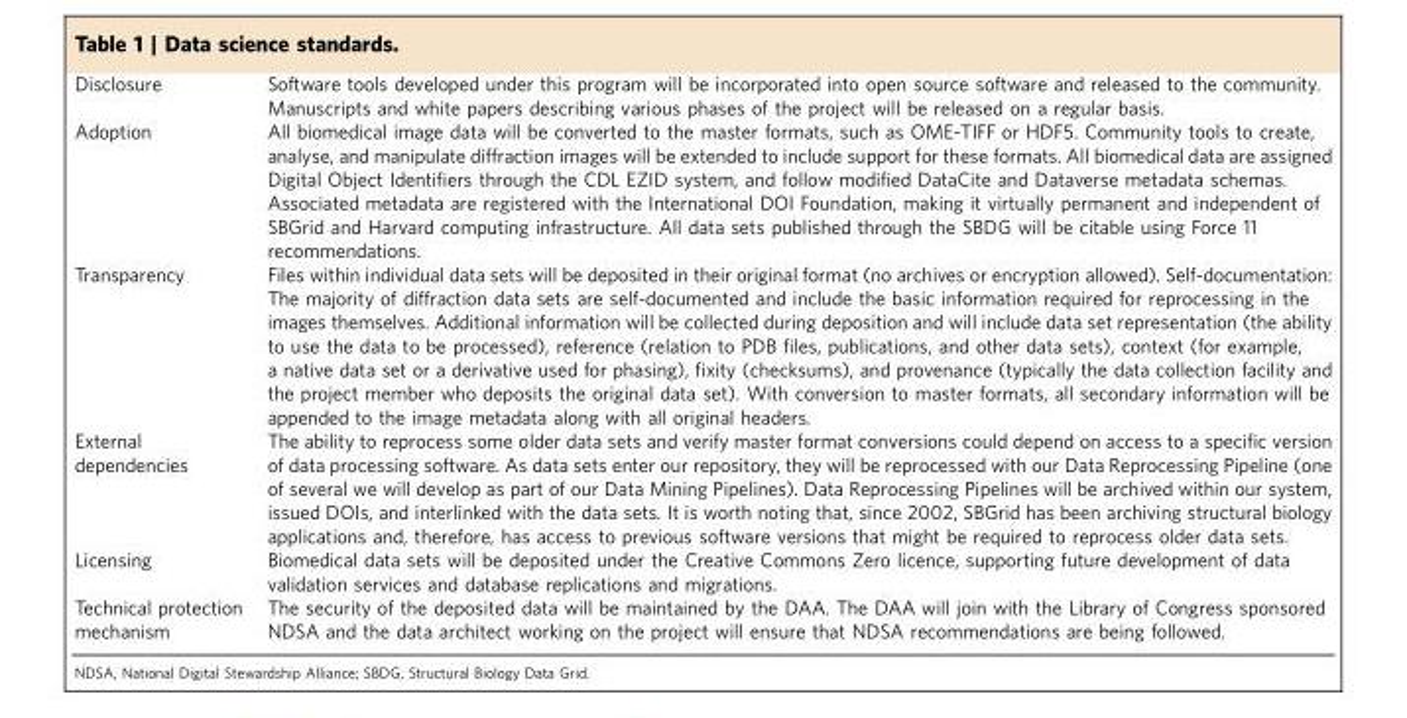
<table><tbody><tr><td>Disclosure</td><td>Software tools developed under this program will be incorporated into open source software and released to the community. Manuscripts and white papers describing various phases of the project will be released on a regular basis.</td></tr><tr><td>Adoption</td><td>All biomedical image data will be converted to the master formats, such as OME-TIFF or HDF5. Community tools to create, analyse, and manipulate diffraction images will be extended to include support for these formats. All biomedical data are assigned Digital Object Identifiers through the CDL EZID system, and follow modified DataCite and Dataverse metadata schemas. Associated metadata are registered with the International DOI Foundation, making it virtually permanent and independent of SBGrid and Harvard computing infrastructure. All data sets published through the SBDG will be citable using Force 11 recommendations.</td></tr><tr><td>Transparency</td><td>Files within individual data sets will be deposited in their original format (no archives or encryption allowed). Self-documentation: The majority of diffraction data sets are self-documented and include the basic information required for reprocessing in the images themselves. Additional information will be collected during deposition and will include data set representation (the ability to use the data to be processed), reference (relation to PDB files, publications, and other data sets), context (for example, a native data set or a derivative used for phasing), fixity (checksums), and provenance (typically the data collection facility and the project member who deposits the original data set). With conversion to master formats, all secondary information will be appended to the image metadata along with all original headers.</td></tr><tr><td>External dependencies</td><td>The ability to reprocess some older data sets and verify master format conversions could depend on access to a specific version of data processing software. As data sets enter our repository, they will be reprocessed with our Data Reprocessing Pipeline (one of several we will develop as part of our Data Mining Pipelines). Data Reprocessing Pipelines will be archived within our system, issued DOIs, and interlinked with the data sets. It is worth noting that, since 2002, SBGrid has been archiving structural biology applications and, therefore, has access to previous software versions that might be required to reprocess older data sets.</td></tr><tr><td>Licensing</td><td>Biomedical data sets will be deposited under the Creative Commons Zero licence, supporting future development of data validation services and database replications and migrations.</td></tr><tr><td>Technical protection mechanism</td><td>The security of the deposited data will be maintained by the DAA. The DAA will join with the Library of Congress sponsored NDSA and the data architect working on the project will ensure that NDSA recommendations are being followed.</td></tr></tbody></table>